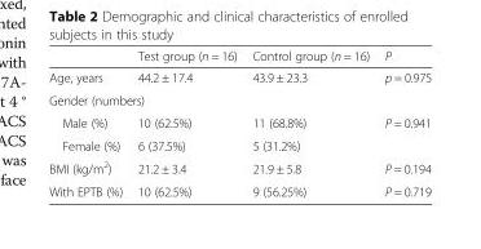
<table><thead><tr><td></td><td>Test group (n = 16)</td><td>Control group (n = 16)</td><td>P</td></tr></thead><tbody><tr><td>Age, years</td><td>44.2 ± 17.4</td><td>43.9 ± 23.3</td><td>p = 0.975</td></tr><tr><td colspan="4">Gender (numbers)</td></tr><tr><td>Male (%)</td><td>10 (62.5%)</td><td>11 (68.8%)</td><td rowspan="2">P = 0.941</td></tr><tr><td>Female (%)</td><td>6 (37.5%)</td><td>5 (31.2%)</td></tr><tr><td>BMI (kg/m<sup>2</sup>)</td><td>21.2 ± 3.4</td><td>21.9 ± 5.8</td><td>P = 0.194</td></tr><tr><td>With EPTB (%)</td><td>10 (62.5%)</td><td>9 (56.25%)</td><td>P = 0.719</td></tr></tbody></table>